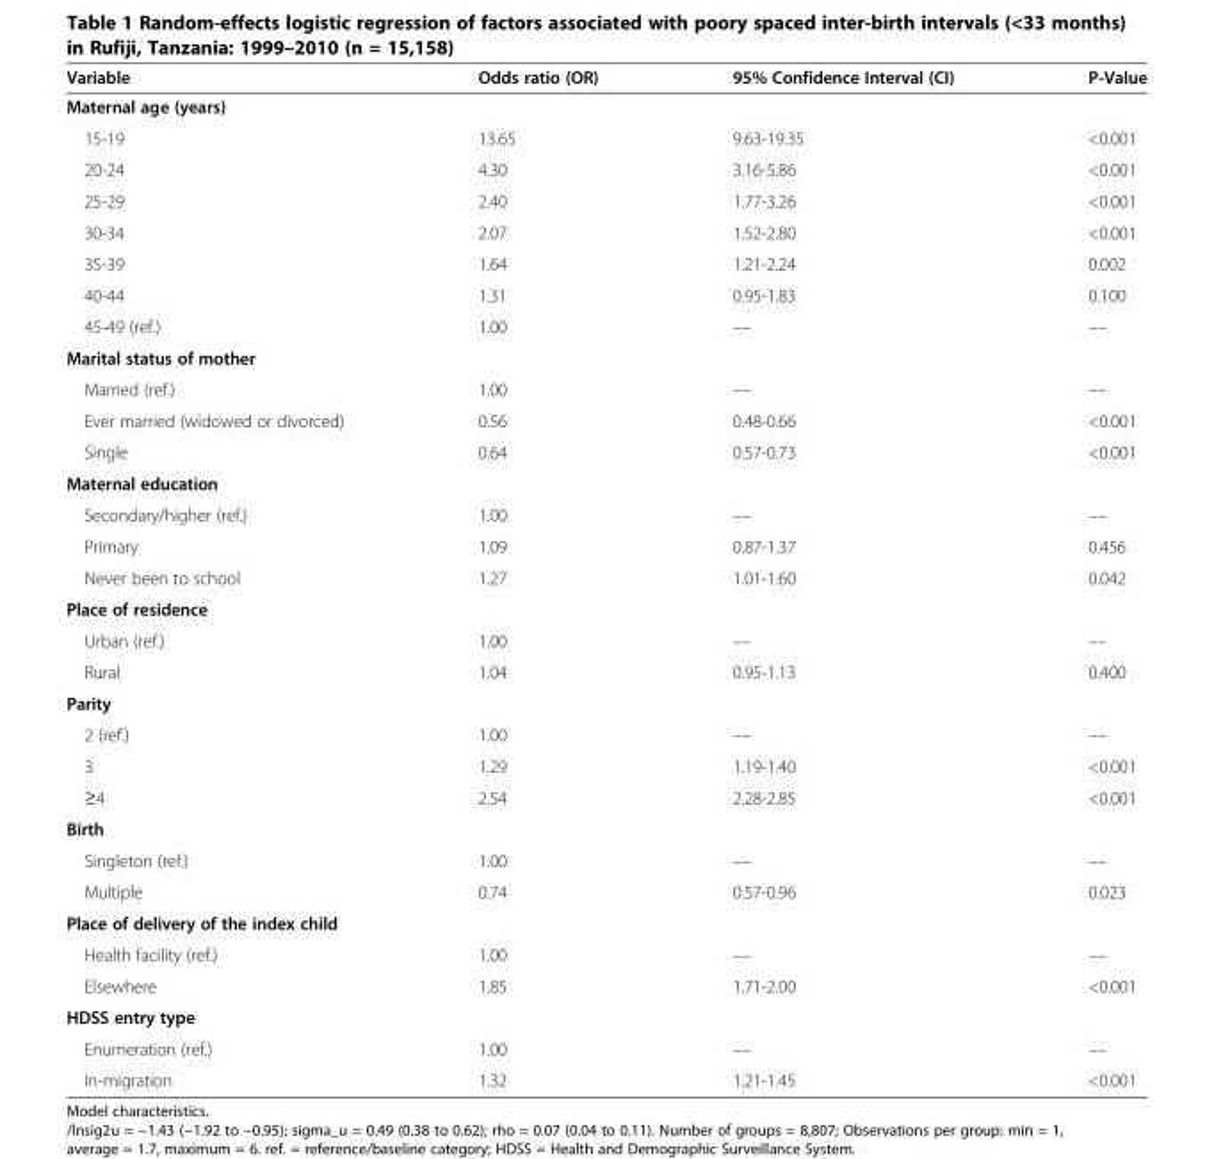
<table><thead><tr><td>Variable</td><td>Odds ratio (OR)</td><td>95% Confidence Interval (CI)</td><td>P-Value</td></tr></thead><tbody><tr><td colspan="4">Maternal age (years)</td></tr><tr><td>15-19</td><td>13.65</td><td>9.63-19.35</td><td>&lt;0.001</td></tr><tr><td>20-24</td><td>4.30</td><td>3.16-5.86</td><td>&lt;0.001</td></tr><tr><td>25-29</td><td>2.40</td><td>1.77-3.26</td><td>&lt;0.001</td></tr><tr><td>30-34</td><td>2.07</td><td>1.52-2.80</td><td>&lt;0.001</td></tr><tr><td>35-39</td><td>1.64</td><td>1.21-2.24</td><td>0.002</td></tr><tr><td>40-44</td><td>1.31</td><td>0.95-1.83</td><td>0.100</td></tr><tr><td>45-49 (ref.)</td><td>1.00</td><td>––</td><td>––</td></tr><tr><td colspan="4">Marital status of mother</td></tr><tr><td>Married (ref.)</td><td>1.00</td><td>––</td><td>––</td></tr><tr><td>Ever married (widowed or divorced)</td><td>0.56</td><td>0.48-0.66</td><td>&lt;0.001</td></tr><tr><td>Single</td><td>0.64</td><td>0.57-0.73</td><td>&lt;0.001</td></tr><tr><td colspan="4">Maternal education</td></tr><tr><td>Secondary/higher (ref.)</td><td>1.00</td><td>––</td><td>––</td></tr><tr><td>Primary</td><td>1.09</td><td>0.87-1.37</td><td>0.456</td></tr><tr><td>Never been to school</td><td>1.27</td><td>1.01-1.60</td><td>0.042</td></tr><tr><td colspan="4">Place of residence</td></tr><tr><td>Urban (ref.)</td><td>1.00</td><td>––</td><td>––</td></tr><tr><td>Rural</td><td>1.04</td><td>0.95-1.13</td><td>0.400</td></tr><tr><td colspan="4">Parity</td></tr><tr><td>2 (ref.)</td><td>1.00</td><td>––</td><td>––</td></tr><tr><td>3</td><td>1.29</td><td>1.19-1.40</td><td>&lt;0.001</td></tr><tr><td>≥4</td><td>2.54</td><td>2.28-2.85</td><td>&lt;0.001</td></tr><tr><td colspan="4">Birth</td></tr><tr><td>Singleton (ref.)</td><td>1.00</td><td>––</td><td>––</td></tr><tr><td>Multiple</td><td>0.74</td><td>0.57-0.96</td><td>0.023</td></tr><tr><td colspan="4">Place of delivery of the index child</td></tr><tr><td>Health facility (ref.)</td><td>1.00</td><td>––</td><td>––</td></tr><tr><td>Elsewhere</td><td>1.85</td><td>1.71-2.00</td><td>&lt;0.001</td></tr><tr><td colspan="4">HDSS entry type</td></tr><tr><td>Enumeration (ref.)</td><td>1.00</td><td>––</td><td>––</td></tr><tr><td>In-migration</td><td>1.32</td><td>1.21-1.45</td><td>&lt;0.001</td></tr></tbody></table>